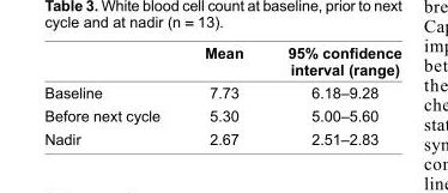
<table><thead><tr><td></td><td>Mean</td><td>95% confi dence interval (range)</td></tr></thead><tbody><tr><td>Baseline</td><td>7.73</td><td>6.18–9.28</td></tr><tr><td>Before next cycle</td><td>5.30</td><td>5.00–5.60</td></tr><tr><td>Nadir</td><td>2.67</td><td>2.51–2.83</td></tr></tbody></table>